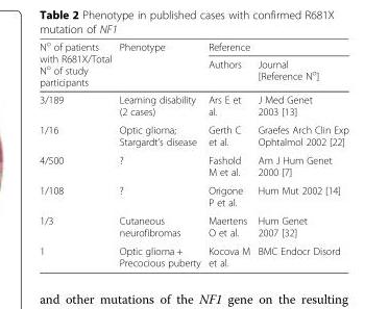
<table><thead><tr><td rowspan="2">N<sup>o</sup> of patients with R681X/Total N<sup>o</sup> of study participants</td><td rowspan="2">Phenotype</td><td colspan="2">Reference</td></tr><tr><td>Authors</td><td>Journal [Reference N<sup>o</sup>]</td></tr></thead><tbody><tr><td>3/189</td><td>Learning disability (2 cases)</td><td>Ars E et al.</td><td>J Med Genet 2003 [13]</td></tr><tr><td>1/16</td><td>Optic glioma; Stargardt’s disease</td><td>Gerth C et al.</td><td>Graefes Arch Clin Exp Ophtalmol 2002 [22]</td></tr><tr><td>4/500</td><td>?</td><td>Fashold M et al.</td><td>Am J Hum Genet 2000 [7]</td></tr><tr><td>1/108</td><td>?</td><td>Origone P et al.</td><td>Hum Mut 2002 [14]</td></tr><tr><td>1/3</td><td>Cutaneous neurofibromas</td><td>Maertens O et al.</td><td>Hum Genet 2007 [32]</td></tr><tr><td>1</td><td>Optic glioma + Precocious puberty</td><td>Kocova M et al.</td><td>BMC Endocr Disord</td></tr></tbody></table>